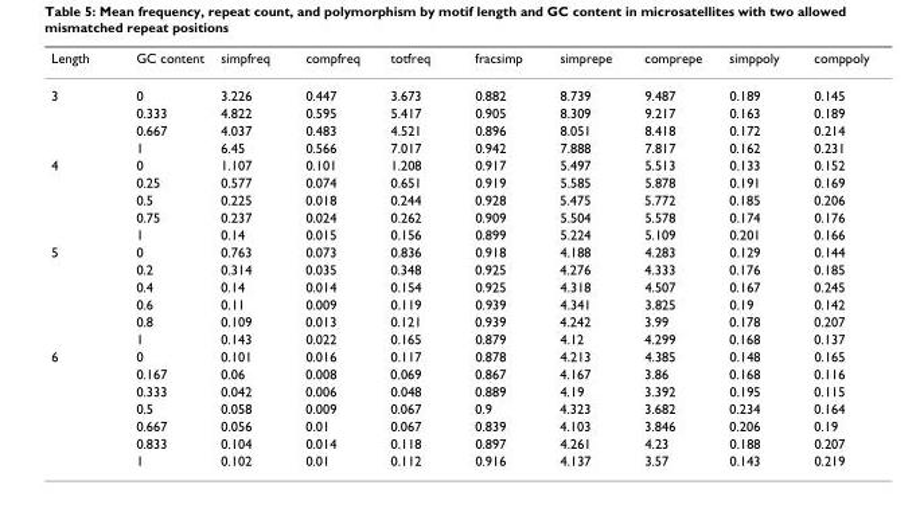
<table><thead><tr><td>Length</td><td>GC content</td><td>simpfreq</td><td>compfreq</td><td>totfreq</td><td>fracsimp</td><td>simprepe</td><td>comprepe</td><td>simppoly</td><td>comppoly</td></tr></thead><tbody><tr><td rowspan="4">3</td><td>0</td><td>3.226</td><td>0.447</td><td>3.673</td><td>0.882</td><td>8.739</td><td>9.487</td><td>0.189</td><td>0.145</td></tr><tr><td>0.333</td><td>4.822</td><td>0.595</td><td>5.417</td><td>0.905</td><td>8.309</td><td>9.217</td><td>0.163</td><td>0.189</td></tr><tr><td>0.667</td><td>4.037</td><td>0.483</td><td>4.521</td><td>0.896</td><td>8.051</td><td>8.418</td><td>0.172</td><td>0.214</td></tr><tr><td>1</td><td>6.45</td><td>0.566</td><td>7.017</td><td>0.942</td><td>7.888</td><td>7.817</td><td>0.162</td><td>0.231</td></tr><tr><td rowspan="5">4</td><td>0</td><td>1.107</td><td>0.101</td><td>1.208</td><td>0.917</td><td>5.497</td><td>5.513</td><td>0.133</td><td>0.152</td></tr><tr><td>0.25</td><td>0.577</td><td>0.074</td><td>0.651</td><td>0.919</td><td>5.585</td><td>5.878</td><td>0.191</td><td>0.169</td></tr><tr><td>0.5</td><td>0.225</td><td>0.018</td><td>0.244</td><td>0.928</td><td>5.475</td><td>5.772</td><td>0.185</td><td>0.206</td></tr><tr><td>0.75</td><td>0.237</td><td>0.024</td><td>0.262</td><td>0.909</td><td>5.504</td><td>5.578</td><td>0.174</td><td>0.176</td></tr><tr><td>1</td><td>0.14</td><td>0.015</td><td>0.156</td><td>0.899</td><td>5.224</td><td>5.109</td><td>0.201</td><td>0.166</td></tr><tr><td rowspan="6">5</td><td>0</td><td>0.763</td><td>0.073</td><td>0.836</td><td>0.918</td><td>4.188</td><td>4.283</td><td>0.129</td><td>0.144</td></tr><tr><td>0.2</td><td>0.314</td><td>0.035</td><td>0.348</td><td>0.925</td><td>4.276</td><td>4.333</td><td>0.176</td><td>0.185</td></tr><tr><td>0.4</td><td>0.14</td><td>0.014</td><td>0.154</td><td>0.925</td><td>4.318</td><td>4.507</td><td>0.167</td><td>0.245</td></tr><tr><td>0.6</td><td>0.11</td><td>0.009</td><td>0.119</td><td>0.939</td><td>4.341</td><td>3.825</td><td>0.19</td><td>0.142</td></tr><tr><td>0.8</td><td>0.109</td><td>0.013</td><td>0.121</td><td>0.939</td><td>4.242</td><td>3.99</td><td>0.178</td><td>0.207</td></tr><tr><td>1</td><td>0.143</td><td>0.022</td><td>0.165</td><td>0.879</td><td>4.12</td><td>4.299</td><td>0.168</td><td>0.137</td></tr><tr><td rowspan="7">6</td><td>0</td><td>0.101</td><td>0.016</td><td>0.117</td><td>0.878</td><td>4.213</td><td>4.385</td><td>0.148</td><td>0.165</td></tr><tr><td>0.167</td><td>0.06</td><td>0.008</td><td>0.069</td><td>0.867</td><td>4.167</td><td>3.86</td><td>0.168</td><td>0.116</td></tr><tr><td>0.333</td><td>0.042</td><td>0.006</td><td>0.048</td><td>0.889</td><td>4.19</td><td>3.392</td><td>0.195</td><td>0.115</td></tr><tr><td>0.5</td><td>0.058</td><td>0.009</td><td>0.067</td><td>0.9</td><td>4.323</td><td>3.682</td><td>0.234</td><td>0.164</td></tr><tr><td>0.667</td><td>0.056</td><td>0.01</td><td>0.067</td><td>0.839</td><td>4.103</td><td>3.846</td><td>0.206</td><td>0.19</td></tr><tr><td>0.833</td><td>0.104</td><td>0.014</td><td>0.118</td><td>0.897</td><td>4.261</td><td>4.23</td><td>0.188</td><td>0.207</td></tr><tr><td>1</td><td>0.102</td><td>0.01</td><td>0.112</td><td>0.916</td><td>4.137</td><td>3.57</td><td>0.143</td><td>0.219</td></tr></tbody></table>